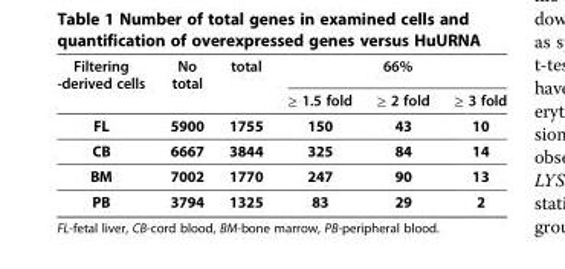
<table><thead><tr><td rowspan="2">Filtering -derived cells</td><td rowspan="2">No total</td><td rowspan="2">total</td><td colspan="3">66%</td></tr><tr><td>≥ 1.5 fold</td><td>≥ 2 fold</td><td>≥ 3 fold</td></tr></thead><tbody><tr><td>FL</td><td>5900</td><td>1755</td><td>150</td><td>43</td><td>10</td></tr><tr><td>CB</td><td>6667</td><td>3844</td><td>325</td><td>84</td><td>14</td></tr><tr><td>BM</td><td>7002</td><td>1770</td><td>247</td><td>90</td><td>13</td></tr><tr><td>PB</td><td>3794</td><td>1325</td><td>83</td><td>29</td><td>2</td></tr></tbody></table>